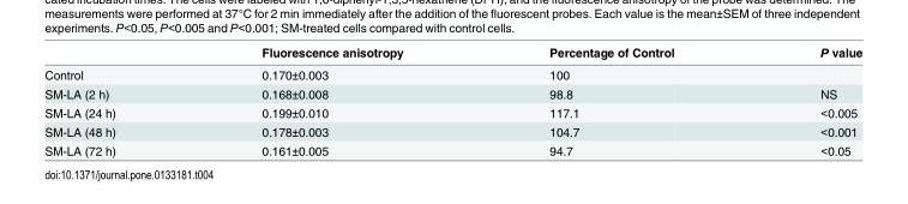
<table><thead><tr><td></td><td>Fluorescence anisotropy</td><td>Percentage of Control</td><td>P value</td></tr></thead><tbody><tr><td>Control</td><td>0.170±0.003</td><td>100</td><td></td></tr><tr><td>SM-LA (2 h)</td><td>0.168±0.008</td><td>98.8</td><td>NS</td></tr><tr><td>SM-LA (24 h)</td><td>0.199±0.010</td><td>117.1</td><td>&lt;0.005</td></tr><tr><td>SM-LA (48 h)</td><td>0.178±0.003</td><td>104.7</td><td>&lt;0.001</td></tr><tr><td>SM-LA (72 h)</td><td>0.161±0.005</td><td>94.7</td><td>&lt;0.05</td></tr></tbody></table>